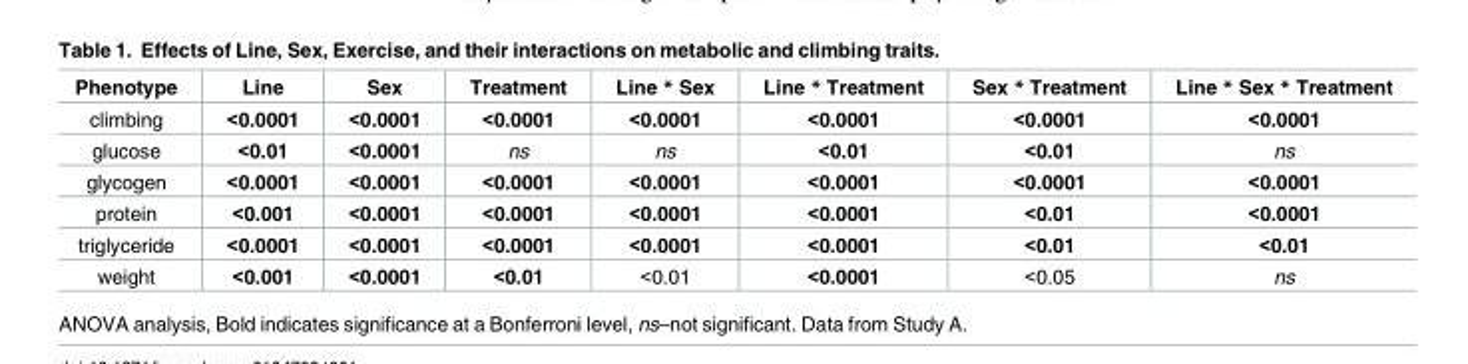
<table><thead><tr><td>Phenotype</td><td>Line</td><td>Sex</td><td>Treatment</td><td>Line * Sex</td><td>Line * Treatment</td><td>Sex * Treatment</td><td>Line * Sex * Treatment</td></tr></thead><tbody><tr><td>climbing</td><td>&lt;0.0001</td><td>&lt;0.0001</td><td>&lt;0.0001</td><td>&lt;0.0001</td><td>&lt;0.0001</td><td>&lt;0.0001</td><td>&lt;0.0001</td></tr><tr><td>glucose</td><td>&lt;0.01</td><td>&lt;0.0001</td><td>ns</td><td>ns</td><td>&lt;0.01</td><td>&lt;0.01</td><td>ns</td></tr><tr><td>glycogen</td><td>&lt;0.0001</td><td>&lt;0.0001</td><td>&lt;0.0001</td><td>&lt;0.0001</td><td>&lt;0.0001</td><td>&lt;0.0001</td><td>&lt;0.0001</td></tr><tr><td>protein</td><td>&lt;0.001</td><td>&lt;0.0001</td><td>&lt;0.0001</td><td>&lt;0.0001</td><td>&lt;0.0001</td><td>&lt;0.01</td><td>&lt;0.0001</td></tr><tr><td>triglyceride</td><td>&lt;0.0001</td><td>&lt;0.0001</td><td>&lt;0.0001</td><td>&lt;0.0001</td><td>&lt;0.0001</td><td>&lt;0.01</td><td>&lt;0.01</td></tr><tr><td>weight</td><td>&lt;0.001</td><td>&lt;0.0001</td><td>&lt;0.01</td><td>&lt;0.01</td><td>&lt;0.0001</td><td>&lt;0.05</td><td>ns</td></tr></tbody></table>